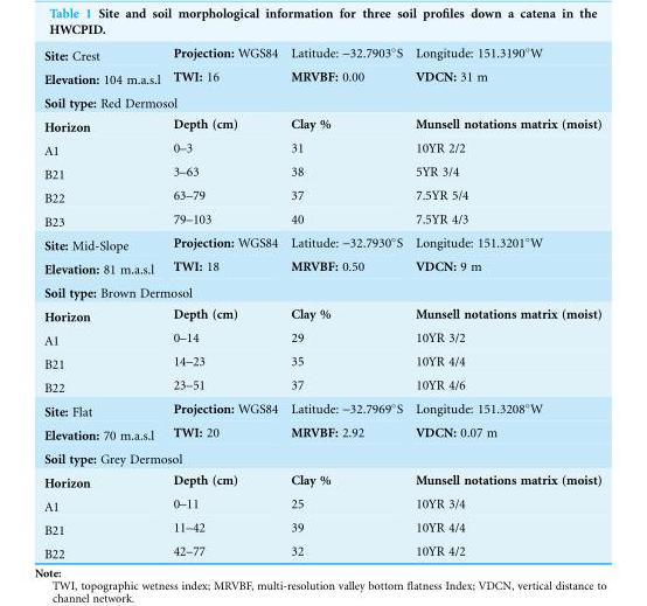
<table><tbody><tr><td>Site: Crest</td><td>Projection: WGS84</td><td>Latitude: -32.7903°S</td><td>Longitude: 151.3190°W</td></tr><tr><td>Elevation: 104 m.a.s.l</td><td>TWI: 16</td><td>MRVBF: 0.00</td><td>VDCN: 31 m</td></tr><tr><td colspan="4">Soil type: Red Dermosol</td></tr><tr><td>Horizon</td><td>Depth (cm)</td><td>Clay %</td><td>Munsell notations matrix (moist)</td></tr><tr><td>A1</td><td>0–3</td><td>31</td><td>10YR 2/2</td></tr><tr><td>B21</td><td>3–63</td><td>38</td><td>5YR 3/4</td></tr><tr><td>B22</td><td>63–79</td><td>37</td><td>7.5YR 5/4</td></tr><tr><td>B23</td><td>79–103</td><td>40</td><td>7.5YR 4/3</td></tr><tr><td>Site: Mid-Slope</td><td>Projection: WGS84</td><td>Latitude: -32.7930°S</td><td>Longitude: 151.3201°W</td></tr><tr><td>Elevation: 81 m.a.s.l</td><td>TWI: 18</td><td>MRVBF: 0.50</td><td>VDCN: 9 m</td></tr><tr><td colspan="4">Soil type: Brown Dermosol</td></tr><tr><td>Horizon</td><td>Depth (cm)</td><td>Clay %</td><td>Munsell notations matrix (moist)</td></tr><tr><td>A1</td><td>0–14</td><td>29</td><td>10YR 3/2</td></tr><tr><td>B21</td><td>14–23</td><td>35</td><td>10YR 4/4</td></tr><tr><td>B22</td><td>23–51</td><td>37</td><td>10YR 4/6</td></tr><tr><td>Site: Flat</td><td>Projection: WGS84</td><td>Latitude: -32.7969°S</td><td>Longitude: 151.3208°W</td></tr><tr><td>Elevation: 70 m.a.s.l</td><td>TWI: 20</td><td>MRVBF: 2.92</td><td>VDCN: 0.07 m</td></tr><tr><td colspan="4">Soil type: Grey Dermosol</td></tr><tr><td>Horizon</td><td>Depth (cm)</td><td>Clay %</td><td>Munsell notations matrix (moist)</td></tr><tr><td>A1</td><td>0–11</td><td>25</td><td>10YR 3/4</td></tr><tr><td>B21</td><td>11–42</td><td>39</td><td>10YR 4/4</td></tr><tr><td>B22</td><td>42–77</td><td>32</td><td>10YR 4/2</td></tr></tbody></table>